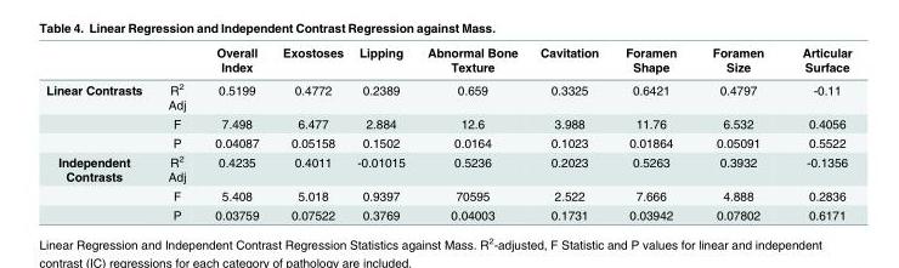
<table><thead><tr><td></td><td></td><td>Overall Index</td><td>Exostoses</td><td>Lipping</td><td>Abnormal Bone Texture</td><td>Cavitation</td><td>Foramen Shape</td><td>Foramen Size</td><td>Articular Surface</td></tr></thead><tbody><tr><td rowspan="3">Linear Contrasts</td><td>R<sup>2</sup> Adj</td><td>0.5199</td><td>0.4772</td><td>0.2389</td><td>0.659</td><td>0.3325</td><td>0.6421</td><td>0.4797</td><td>-0.11</td></tr><tr><td>F</td><td>7.498</td><td>6.477</td><td>2.884</td><td>12.6</td><td>3.988</td><td>11.76</td><td>6.532</td><td>0.4056</td></tr><tr><td>P</td><td>0.04087</td><td>0.05158</td><td>0.1502</td><td>0.0164</td><td>0.1023</td><td>0.01864</td><td>0.05091</td><td>0.5522</td></tr><tr><td rowspan="3">Independent Contrasts</td><td>R<sup>2</sup> Adj</td><td>0.4235</td><td>0.4011</td><td>-0.01015</td><td>0.5236</td><td>0.2023</td><td>0.5263</td><td>0.3932</td><td>-0.1356</td></tr><tr><td>F</td><td>5.408</td><td>5.018</td><td>0.9397</td><td>70595</td><td>2.522</td><td>7.666</td><td>4.888</td><td>0.2836</td></tr><tr><td>P</td><td>0.03759</td><td>0.07522</td><td>0.3769</td><td>0.04003</td><td>0.1731</td><td>0.03942</td><td>0.07802</td><td>0.6171</td></tr></tbody></table>